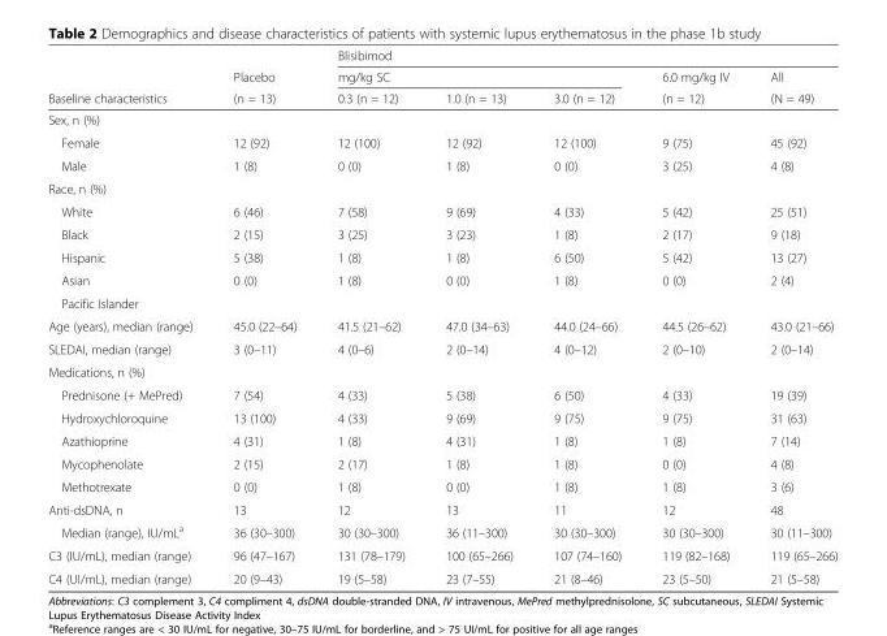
<table><thead><tr><td rowspan="3">Baseline characteristics</td><td rowspan="3">Placebo (n = 13)</td><td colspan="5">Blisibimod</td></tr><tr><td colspan="3">mg/kg SC</td><td rowspan="2">6.0 mg/kg IV (n = 12)</td><td rowspan="2">All (N = 49)</td></tr><tr><td>0.3 (n = 12)</td><td>1.0 (n = 13)</td><td>3.0 (n = 12)</td></tr></thead><tbody><tr><td colspan="7">Sex, n (%)</td></tr><tr><td>Female</td><td>12 (92)</td><td>12 (100)</td><td>12 (92)</td><td>12 (100)</td><td>9 (75)</td><td>45 (92)</td></tr><tr><td>Male</td><td>1 (8)</td><td>0 (0)</td><td>1 (8)</td><td>0 (0)</td><td>3 (25)</td><td>4 (8)</td></tr><tr><td colspan="7">Race, n (%)</td></tr><tr><td>White</td><td>6 (46)</td><td>7 (58)</td><td>9 (69)</td><td>4 (33)</td><td>5 (42)</td><td>25 (51)</td></tr><tr><td>Black</td><td>2 (15)</td><td>3 (25)</td><td>3 (23)</td><td>1 (8)</td><td>2 (17)</td><td>9 (18)</td></tr><tr><td>Hispanic</td><td>5 (38)</td><td>1 (8)</td><td>1 (8)</td><td>6 (50)</td><td>5 (42)</td><td>13 (27)</td></tr><tr><td>Asian</td><td>0 (0)</td><td>1 (8)</td><td>0 (0)</td><td>1 (8)</td><td>0 (0)</td><td>2 (4)</td></tr><tr><td colspan="7">Pacific Islander</td></tr><tr><td>Age (years), median (range)</td><td>45.0 (22–64)</td><td>41.5 (21–62)</td><td>47.0 (34–63)</td><td>44.0 (24–66)</td><td>44.5 (26–62)</td><td>43.0 (21–66)</td></tr><tr><td>SLEDAI, median (range)</td><td>3 (0–11)</td><td>4 (0–6)</td><td>2 (0–14)</td><td>4 (0–12)</td><td>2 (0–10)</td><td>2 (0–14)</td></tr><tr><td colspan="7">Medications, n (%)</td></tr><tr><td>Prednisone (+ MePred)</td><td>7 (54)</td><td>4 (33)</td><td>5 (38)</td><td>6 (50)</td><td>4 (33)</td><td>19 (39)</td></tr><tr><td>Hydroxychloroquine</td><td>13 (100)</td><td>4 (33)</td><td>9 (69)</td><td>9 (75)</td><td>9 (75)</td><td>31 (63)</td></tr><tr><td>Azathioprine</td><td>4 (31)</td><td>1 (8)</td><td>4 (31)</td><td>1 (8)</td><td>1 (8)</td><td>7 (14)</td></tr><tr><td>Mycophenolate</td><td>2 (15)</td><td>2 (17)</td><td>1 (8)</td><td>1 (8)</td><td>0 (0)</td><td>4 (8)</td></tr><tr><td>Methotrexate</td><td>0 (0)</td><td>1 (8)</td><td>0 (0)</td><td>1 (8)</td><td>1 (8)</td><td>3 (6)</td></tr><tr><td>Anti-dsDNA, n</td><td>13</td><td>12</td><td>13</td><td>11</td><td>12</td><td>48</td></tr><tr><td>Median (range), IU/mL<sup>a</sup></td><td>36 (30–300)</td><td>30 (30–300)</td><td>36 (11–300)</td><td>30 (30–300)</td><td>30 (30–300)</td><td>30 (11–300)</td></tr><tr><td>C3 (IU/mL), median (range)</td><td>96 (47–167)</td><td>131 (78–179)</td><td>100 (65–266)</td><td>107 (74–160)</td><td>119 (82–168)</td><td>119 (65–266)</td></tr><tr><td>C4 (UI/mL), median (range)</td><td>20 (9–43)</td><td>19 (5–58)</td><td>23 (7–55)</td><td>21 (8–46)</td><td>23 (5–50)</td><td>21 (5–58)</td></tr></tbody></table>